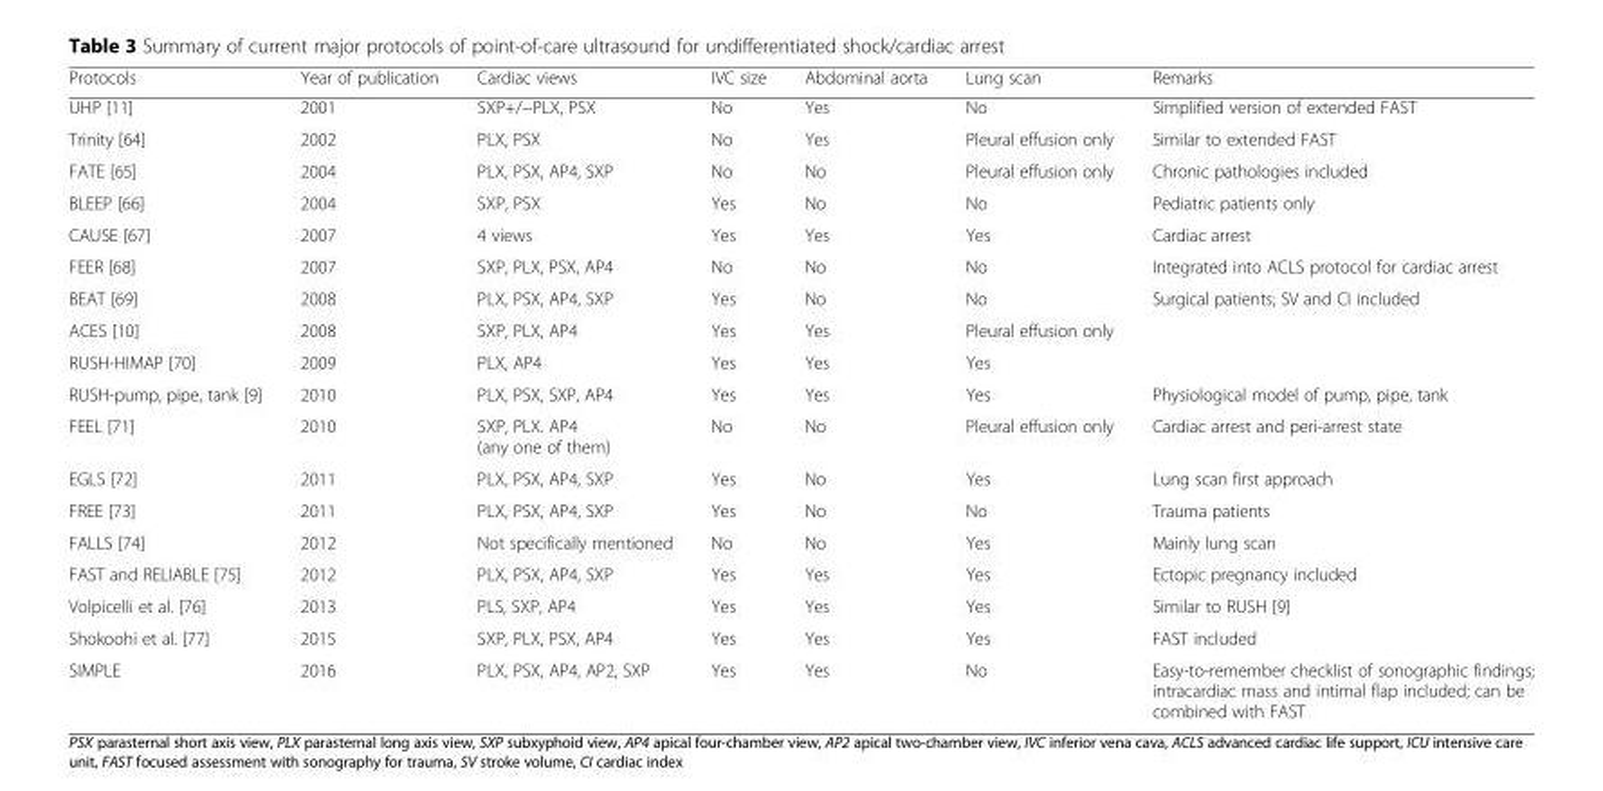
<table><thead><tr><td>Protocols</td><td>Year of publication</td><td>Cardiac views</td><td>IVC size</td><td>Abdominal aorta</td><td>Lung scan</td><td>Remarks</td></tr></thead><tbody><tr><td>UHP [11]</td><td>2001</td><td>SXP+/−PLX, PSX</td><td>No</td><td>Yes</td><td>No</td><td>Simplified version of extended FAST</td></tr><tr><td>Trinity [64]</td><td>2002</td><td>PLX, PSX</td><td>No</td><td>Yes</td><td>Pleural effusion only</td><td>Similar to extended FAST</td></tr><tr><td>FATE [65]</td><td>2004</td><td>PLX, PSX, AP4, SXP</td><td>No</td><td>No</td><td>Pleural effusion only</td><td>Chronic pathologies included</td></tr><tr><td>BLEEP [66]</td><td>2004</td><td>SXP, PSX</td><td>Yes</td><td>No</td><td>No</td><td>Pediatric patients only</td></tr><tr><td>CAUSE [67]</td><td>2007</td><td>4 views</td><td>Yes</td><td>Yes</td><td>Yes</td><td>Cardiac arrest</td></tr><tr><td>FEER [68]</td><td>2007</td><td>SXP, PLX, PSX, AP4</td><td>No</td><td>No</td><td>No</td><td>Integrated into ACLS protocol for cardiac arrest</td></tr><tr><td>BEAT [69]</td><td>2008</td><td>PLX, PSX, AP4, SXP</td><td>Yes</td><td>No</td><td>No</td><td>Surgical patients; SV and CI included</td></tr><tr><td>ACES [10]</td><td>2008</td><td>SXP, PLX, AP4</td><td>Yes</td><td>Yes</td><td>Pleural effusion only</td><td></td></tr><tr><td>RUSH-HIMAP [70]</td><td>2009</td><td>PLX, AP4</td><td>Yes</td><td>Yes</td><td>Yes</td><td></td></tr><tr><td>RUSH-pump, pipe, tank [9]</td><td>2010</td><td>PLX, PSX, SXP, AP4</td><td>Yes</td><td>Yes</td><td>Yes</td><td>Physiological model of pump, pipe, tank</td></tr><tr><td>FEEL [71]</td><td>2010</td><td>SXP, PLX. AP4 (any one of them)</td><td>No</td><td>No</td><td>Pleural effusion only</td><td>Cardiac arrest and peri-arrest state</td></tr><tr><td>EGLS [72]</td><td>2011</td><td>PLX, PSX, AP4, SXP</td><td>Yes</td><td>No</td><td>Yes</td><td>Lung scan first approach</td></tr><tr><td>FREE [73]</td><td>2011</td><td>PLX, PSX, AP4, SXP</td><td>Yes</td><td>No</td><td>No</td><td>Trauma patients</td></tr><tr><td>FALLS [74]</td><td>2012</td><td>Not specifically mentioned</td><td>No</td><td>No</td><td>Yes</td><td>Mainly lung scan</td></tr><tr><td>FAST and RELIABLE [75]</td><td>2012</td><td>PLX, PSX, AP4, SXP</td><td>Yes</td><td>Yes</td><td>Yes</td><td>Ectopic pregnancy included</td></tr><tr><td>Volpicelli et al. [76]</td><td>2013</td><td>PLS, SXP, AP4</td><td>Yes</td><td>Yes</td><td>Yes</td><td>Similar to RUSH [9]</td></tr><tr><td>Shokoohi et al. [77]</td><td>2015</td><td>SXP, PLX, PSX, AP4</td><td>Yes</td><td>Yes</td><td>Yes</td><td>FAST included</td></tr><tr><td>SIMPLE</td><td>2016</td><td>PLX, PSX, AP4, AP2, SXP</td><td>Yes</td><td>Yes</td><td>No</td><td>Easy-to-remember checklist of sonographic findings; intracardiac mass and intimal flap included; can be combined with FAST</td></tr></tbody></table>